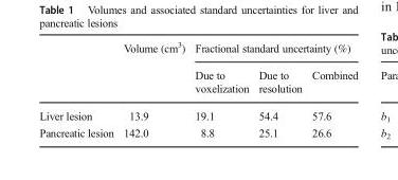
<table><thead><tr><td rowspan="2"></td><td rowspan="2">Volume (cm<sup>3</sup>)</td><td colspan="3">Fractional standard uncertainty (%)</td></tr><tr><td>Due to voxelization</td><td>Due to resolution</td><td>Combined</td></tr></thead><tbody><tr><td>Liver lesion</td><td>13.9</td><td>19.1</td><td>54.4</td><td>57.6</td></tr><tr><td>Pancreatic lesion</td><td>142.0</td><td>8.8</td><td>25.1</td><td>26.6</td></tr></tbody></table>